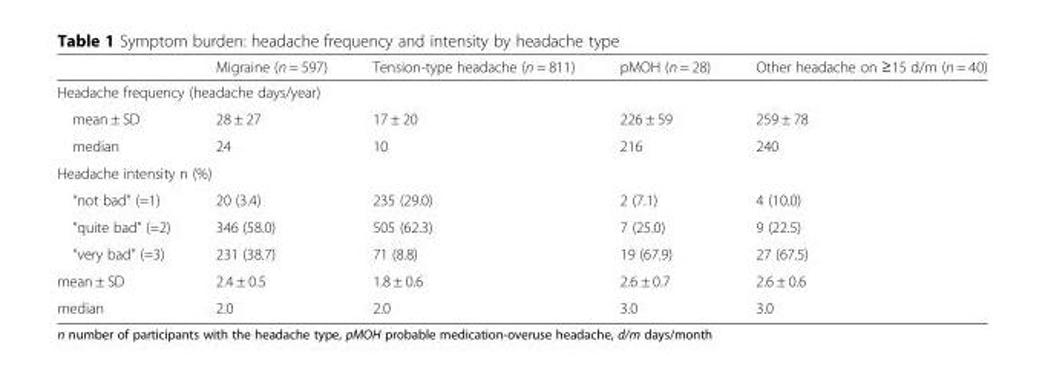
<table><thead><tr><td></td><td>Migraine (n = 597)</td><td>Tension-type headache (n = 811)</td><td>pMOH (n = 28)</td><td>Other headache on ≥15 d/m (n = 40)</td></tr></thead><tbody><tr><td colspan="5">Headache frequency (headache days/year)</td></tr><tr><td>mean ± SD</td><td>28 ± 27</td><td>17 ± 20</td><td>226 ± 59</td><td>259 ± 78</td></tr><tr><td>median</td><td>24</td><td>10</td><td>216</td><td>240</td></tr><tr><td colspan="5">Headache intensity n (%)</td></tr><tr><td>“not bad” (=1)</td><td>20 (3.4)</td><td>235 (29.0)</td><td>2 (7.1)</td><td>4 (10.0)</td></tr><tr><td>“quite bad” (=2)</td><td>346 (58.0)</td><td>505 (62.3)</td><td>7 (25.0)</td><td>9 (22.5)</td></tr><tr><td>“very bad” (=3)</td><td>231 (38.7)</td><td>71 (8.8)</td><td>19 (67.9)</td><td>27 (67.5)</td></tr><tr><td>mean ± SD</td><td>2.4 ± 0.5</td><td>1.8 ± 0.6</td><td>2.6 ± 0.7</td><td>2.6 ± 0.6</td></tr><tr><td>median</td><td>2.0</td><td>2.0</td><td>3.0</td><td>3.0</td></tr></tbody></table>